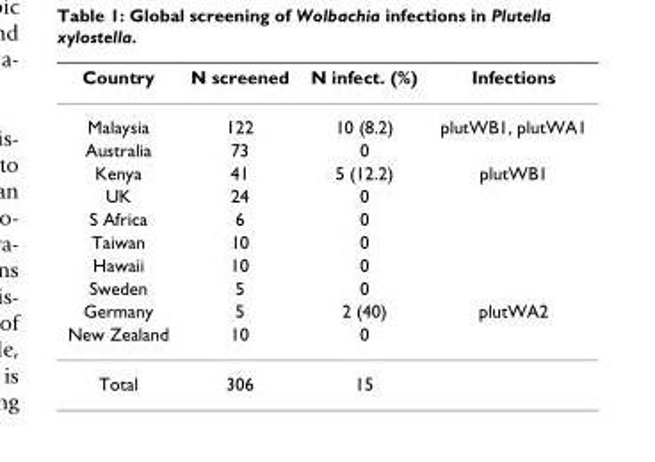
<table><thead><tr><td>Country</td><td>N screened</td><td>N infect. (%)</td><td>Infections</td></tr></thead><tbody><tr><td>Malaysia</td><td>122</td><td>10 (8.2)</td><td>plutWB1, plutWA1</td></tr><tr><td>Australia</td><td>73</td><td>0</td><td></td></tr><tr><td>Kenya</td><td>41</td><td>5 (12.2)</td><td>plutWB1</td></tr><tr><td>UK</td><td>24</td><td>0</td><td></td></tr><tr><td>S Africa</td><td>6</td><td>0</td><td></td></tr><tr><td>Taiwan</td><td>10</td><td>0</td><td></td></tr><tr><td>Hawaii</td><td>10</td><td>0</td><td></td></tr><tr><td>Sweden</td><td>5</td><td>0</td><td></td></tr><tr><td>Germany</td><td>5</td><td>2 (40)</td><td>plutWA2</td></tr><tr><td>New Zealand</td><td>10</td><td>0</td><td></td></tr><tr><td>Total</td><td>306</td><td>15</td><td></td></tr></tbody></table>